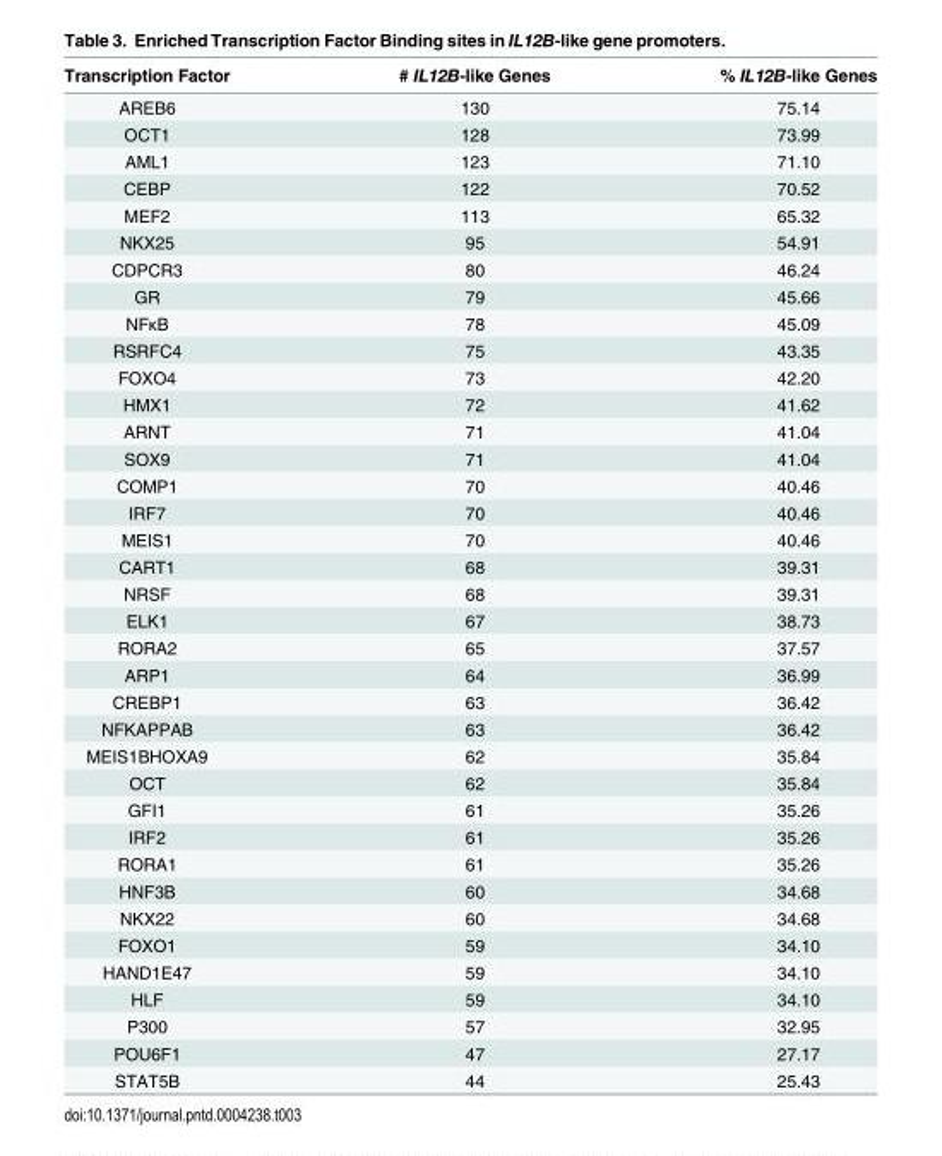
<table><thead><tr><td>Transcription Factor</td><td># IL12B-like Genes</td><td>% IL12B-like Genes</td></tr></thead><tbody><tr><td>AREB6</td><td>130</td><td>75.14</td></tr><tr><td>OCT1</td><td>128</td><td>73.99</td></tr><tr><td>AML1</td><td>123</td><td>71.10</td></tr><tr><td>CEBP</td><td>122</td><td>70.52</td></tr><tr><td>MEF2</td><td>113</td><td>65.32</td></tr><tr><td>NKX25</td><td>95</td><td>54.91</td></tr><tr><td>CDPCR3</td><td>80</td><td>46.24</td></tr><tr><td>GR</td><td>79</td><td>45.66</td></tr><tr><td>NFκB</td><td>78</td><td>45.09</td></tr><tr><td>RSRFC4</td><td>75</td><td>43.35</td></tr><tr><td>FOXO4</td><td>73</td><td>42.20</td></tr><tr><td>HMX1</td><td>72</td><td>41.62</td></tr><tr><td>ARNT</td><td>71</td><td>41.04</td></tr><tr><td>SOX9</td><td>71</td><td>41.04</td></tr><tr><td>COMP1</td><td>70</td><td>40.46</td></tr><tr><td>IRF7</td><td>70</td><td>40.46</td></tr><tr><td>MEIS1</td><td>70</td><td>40.46</td></tr><tr><td>CART1</td><td>68</td><td>39.31</td></tr><tr><td>NRSF</td><td>68</td><td>39.31</td></tr><tr><td>ELK1</td><td>67</td><td>38.73</td></tr><tr><td>RORA2</td><td>65</td><td>37.57</td></tr><tr><td>ARP1</td><td>64</td><td>36.99</td></tr><tr><td>CREBP1</td><td>63</td><td>36.42</td></tr><tr><td>NFKAPPAB</td><td>63</td><td>36.42</td></tr><tr><td>MEIS1BHOXA9</td><td>62</td><td>35.84</td></tr><tr><td>OCT</td><td>62</td><td>35.84</td></tr><tr><td>GFI1</td><td>61</td><td>35.26</td></tr><tr><td>IRF2</td><td>61</td><td>35.26</td></tr><tr><td>RORA1</td><td>61</td><td>35.26</td></tr><tr><td>HNF3B</td><td>60</td><td>34.68</td></tr><tr><td>NKX22</td><td>60</td><td>34.68</td></tr><tr><td>FOXO1</td><td>59</td><td>34.10</td></tr><tr><td>HAND1E47</td><td>59</td><td>34.10</td></tr><tr><td>HLF</td><td>59</td><td>34.10</td></tr><tr><td>P300</td><td>57</td><td>32.95</td></tr><tr><td>POU6F1</td><td>47</td><td>27.17</td></tr><tr><td>STAT5B</td><td>44</td><td>25.43</td></tr></tbody></table>